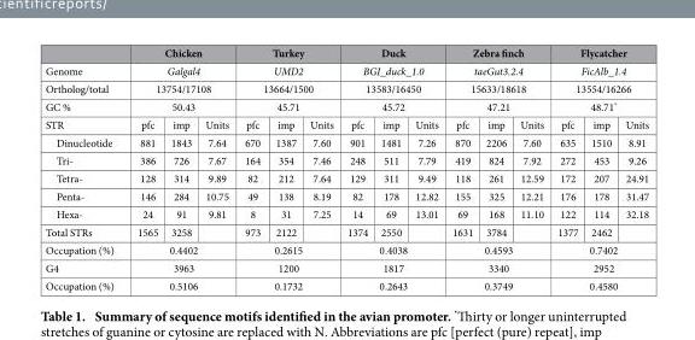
<table><thead><tr><td></td><td colspan="3">Chicken</td><td colspan="3">Turkey</td><td colspan="3">Duck</td><td colspan="3">Zebra finch</td><td colspan="3">Flycatcher</td></tr></thead><tbody><tr><td>Genome</td><td colspan="3">Galgal4</td><td colspan="3">UMD2</td><td colspan="3">BGI_duck_1.0</td><td colspan="3">taeGut3.2.4</td><td colspan="3">FicAlb_1.4</td></tr><tr><td>Ortholog/total</td><td colspan="3">13754/17108</td><td colspan="3">13664/1500</td><td colspan="3">13583/16450</td><td colspan="3">15633/18618</td><td colspan="3">13554/16266</td></tr><tr><td>GC %</td><td colspan="3">50.43</td><td colspan="3">45.71</td><td colspan="3">45.72</td><td colspan="3">47.21</td><td colspan="3">48.71*</td></tr><tr><td>STR</td><td>pfc</td><td>imp</td><td>Units</td><td>pfc</td><td>imp</td><td>Units</td><td>pfc</td><td>imp</td><td>Units</td><td>pfc</td><td>imp</td><td>Units</td><td>pfc</td><td>imp</td><td>Units</td></tr><tr><td>Dinucleotide</td><td>881</td><td>1843</td><td>7.64</td><td>670</td><td>1387</td><td>7.60</td><td>901</td><td>1481</td><td>7.26</td><td>870</td><td>2206</td><td>7.60</td><td>635</td><td>1510</td><td>8.91</td></tr><tr><td>Tri-</td><td>386</td><td>726</td><td>7.67</td><td>164</td><td>354</td><td>7.46</td><td>248</td><td>511</td><td>7.79</td><td>419</td><td>824</td><td>7.92</td><td>272</td><td>453</td><td>9.26</td></tr><tr><td>Tetra-</td><td>128</td><td>314</td><td>9.89</td><td>82</td><td>212</td><td>7.64</td><td>129</td><td>311</td><td>9.49</td><td>118</td><td>261</td><td>12.59</td><td>172</td><td>207</td><td>24.91</td></tr><tr><td>Penta-</td><td>146</td><td>284</td><td>10.75</td><td>49</td><td>138</td><td>8.19</td><td>82</td><td>178</td><td>12.82</td><td>155</td><td>325</td><td>12.21</td><td>176</td><td>178</td><td>31.47</td></tr><tr><td>Hexa-</td><td>24</td><td>91</td><td>9.81</td><td>8</td><td>31</td><td>7.25</td><td>14</td><td>69</td><td>13.01</td><td>69</td><td>168</td><td>11.10</td><td>122</td><td>114</td><td>32.18</td></tr><tr><td>Total STRs</td><td>1565</td><td>3258</td><td></td><td>973</td><td>2122</td><td></td><td>1374</td><td>2550</td><td></td><td>1631</td><td>3784</td><td></td><td>1377</td><td>2462</td><td></td></tr><tr><td>Occupation (%)</td><td colspan="3">0.4402</td><td colspan="3">0.2615</td><td colspan="3">0.4038</td><td colspan="3">0.4593</td><td colspan="3">0.7402</td></tr><tr><td>G4</td><td colspan="3">3963</td><td colspan="3">1200</td><td colspan="3">1817</td><td colspan="3">3340</td><td colspan="3">2952</td></tr><tr><td>Occupation (%)</td><td colspan="3">0.5106</td><td colspan="3">0.1732</td><td colspan="3">0.2643</td><td colspan="3">0.3749</td><td colspan="3">0.4580</td></tr></tbody></table>